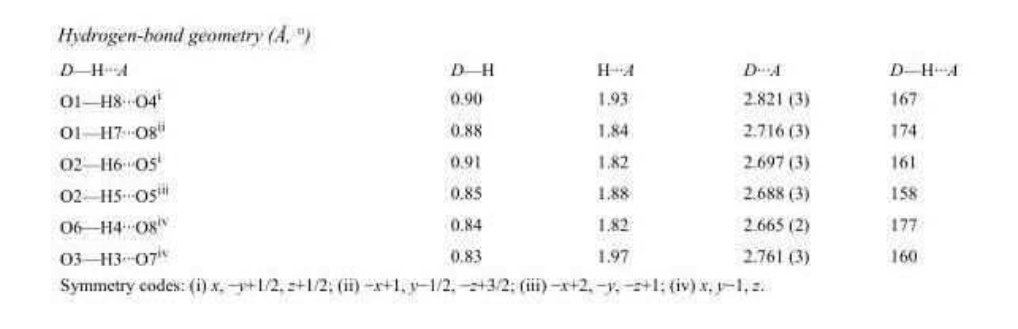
<table><tbody><tr><td>D—H···A</td><td>D—H</td><td>H···A</td><td>D···A</td><td>D—H···A</td></tr><tr><td>O1—H8···O4<sup>i</sup></td><td>0.90</td><td>1.93</td><td>2.821 (3)</td><td>167</td></tr><tr><td>O1—H7···O8<sup>ii</sup></td><td>0.88</td><td>1.84</td><td>2.716 (3)</td><td>174</td></tr><tr><td>O2—H6···O5<sup>i</sup></td><td>0.91</td><td>1.82</td><td>2.697 (3)</td><td>161</td></tr><tr><td>O2—H5···O5<sup>iii</sup></td><td>0.85</td><td>1.88</td><td>2.688 (3)</td><td>158</td></tr><tr><td>O6—H4···O8<sup>iv</sup></td><td>0.84</td><td>1.82</td><td>2.665 (2)</td><td>177</td></tr><tr><td>O3—H3···O7<sup>iv</sup></td><td>0.83</td><td>1.97</td><td>2.761 (3)</td><td>160</td></tr></tbody></table>